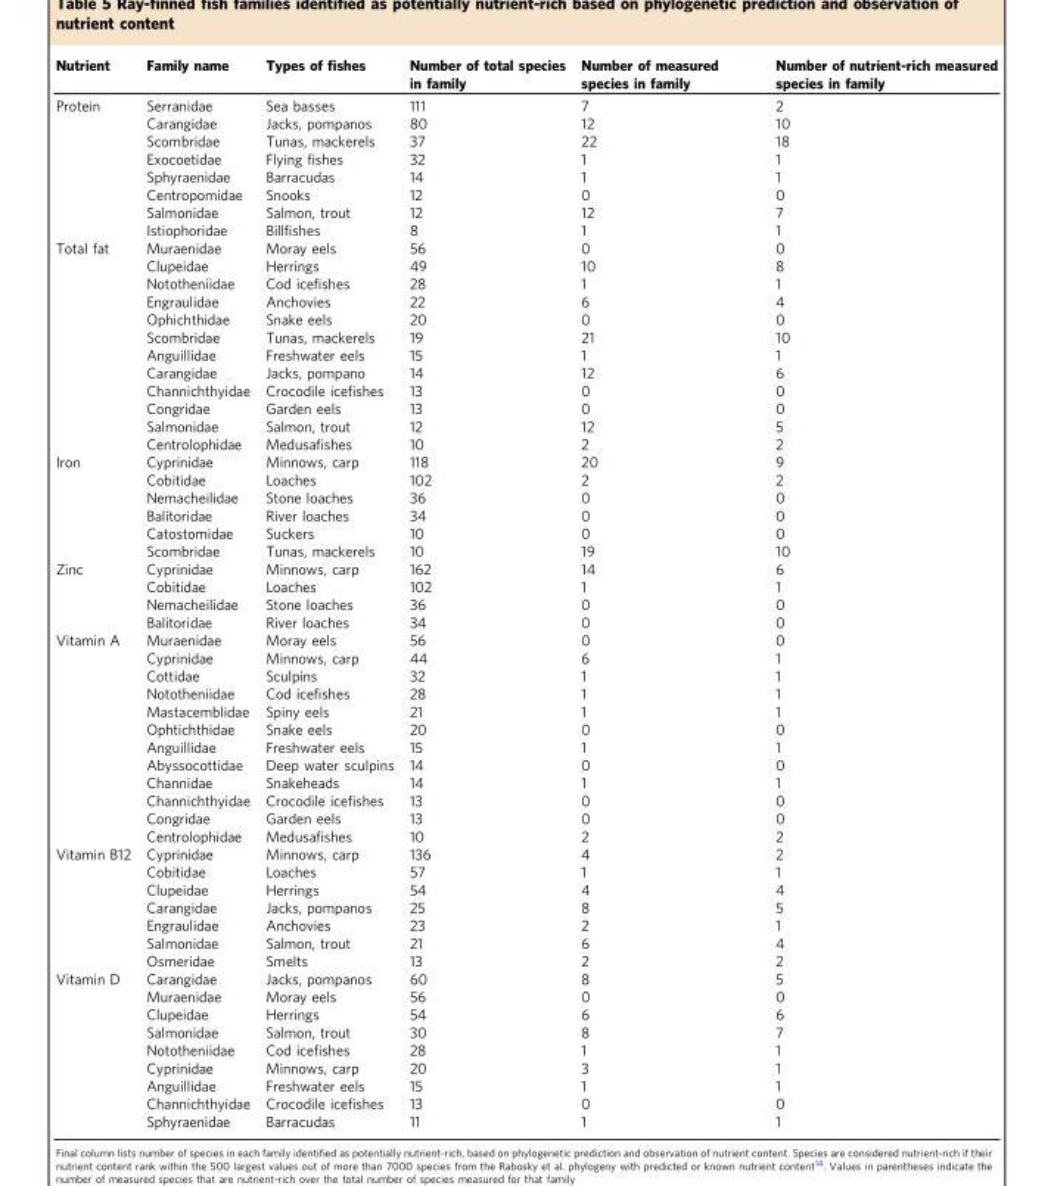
<table><thead><tr><td>Nutrient</td><td>Family name</td><td>Types of fishes</td><td>Number of total species in family</td><td>Number of measured species in family</td><td>Number of nutrient-rich measured species in family</td></tr></thead><tbody><tr><td rowspan="8">Protein</td><td>Serranidae</td><td>Sea basses</td><td>111</td><td>7</td><td>2</td></tr><tr><td>Carangidae</td><td>Jacks, pompanos</td><td>80</td><td>12</td><td>10</td></tr><tr><td>Scombridae</td><td>Tunas, mackerels</td><td>37</td><td>22</td><td>18</td></tr><tr><td>Exocoetidae</td><td>Flying fishes</td><td>32</td><td>1</td><td>1</td></tr><tr><td>Sphyraenidae</td><td>Barracudas</td><td>14</td><td>1</td><td>1</td></tr><tr><td>Centropomidae</td><td>Snooks</td><td>12</td><td>0</td><td>0</td></tr><tr><td>Salmonidae</td><td>Salmon, trout</td><td>12</td><td>12</td><td>7</td></tr><tr><td>Istiophoridae</td><td>Billfishes</td><td>8</td><td>1</td><td>1</td></tr><tr><td rowspan="12">Total fat</td><td>Muraenidae</td><td>Moray eels</td><td>56</td><td>0</td><td>0</td></tr><tr><td>Clupeidae</td><td>Herrings</td><td>49</td><td>10</td><td>8</td></tr><tr><td>Nototheniidae</td><td>Cod icefishes</td><td>28</td><td>1</td><td>1</td></tr><tr><td>Engraulidae</td><td>Anchovies</td><td>22</td><td>6</td><td>4</td></tr><tr><td>Ophichthidae</td><td>Snake eels</td><td>20</td><td>0</td><td>0</td></tr><tr><td>Scombridae</td><td>Tunas, mackerels</td><td>19</td><td>21</td><td>10</td></tr><tr><td>Anguillidae</td><td>Freshwater eels</td><td>15</td><td>1</td><td>1</td></tr><tr><td>Carangidae</td><td>Jacks, pompano</td><td>14</td><td>12</td><td>6</td></tr><tr><td>Channichthyidae</td><td>Crocodile icefishes</td><td>13</td><td>0</td><td>0</td></tr><tr><td>Congridae</td><td>Garden eels</td><td>13</td><td>0</td><td>0</td></tr><tr><td>Salmonidae</td><td>Salmon, trout</td><td>12</td><td>12</td><td>5</td></tr><tr><td>Centrolophidae</td><td>Medusafishes</td><td>10</td><td>2</td><td>2</td></tr><tr><td rowspan="6">Iron</td><td>Cyprinidae</td><td>Minnows, carp</td><td>118</td><td>20</td><td>9</td></tr><tr><td>Cobitidae</td><td>Loaches</td><td>102</td><td>2</td><td>2</td></tr><tr><td>Nemacheilidae</td><td>Stone loaches</td><td>36</td><td>0</td><td>0</td></tr><tr><td>Balitoridae</td><td>River loaches</td><td>34</td><td>0</td><td>0</td></tr><tr><td>Catostomidae</td><td>Suckers</td><td>10</td><td>0</td><td>0</td></tr><tr><td>Scombridae</td><td>Tunas, mackerels</td><td>10</td><td>19</td><td>10</td></tr><tr><td rowspan="4">Zinc</td><td>Cyprinidae</td><td>Minnows, carp</td><td>162</td><td>14</td><td>6</td></tr><tr><td>Cobitidae</td><td>Loaches</td><td>102</td><td>1</td><td>1</td></tr><tr><td>Nemacheilidae</td><td>Stone loaches</td><td>36</td><td>0</td><td>0</td></tr><tr><td>Balitoridae</td><td>River loaches</td><td>34</td><td>0</td><td>0</td></tr><tr><td rowspan="12">Vitamin A</td><td>Muraenidae</td><td>Moray eels</td><td>56</td><td>0</td><td>0</td></tr><tr><td>Cyprinidae</td><td>Minnows, carp</td><td>44</td><td>6</td><td>1</td></tr><tr><td>Cottidae</td><td>Sculpins</td><td>32</td><td>1</td><td>1</td></tr><tr><td>Nototheniidae</td><td>Cod icefishes</td><td>28</td><td>1</td><td>1</td></tr><tr><td>Mastacemblidae</td><td>Spiny eels</td><td>21</td><td>1</td><td>1</td></tr><tr><td>Ophtichthidae</td><td>Snake eels</td><td>20</td><td>0</td><td>0</td></tr><tr><td>Anguillidae</td><td>Freshwater eels</td><td>15</td><td>1</td><td>1</td></tr><tr><td>Abyssocottidae</td><td>Deep water sculpins</td><td>14</td><td>0</td><td>0</td></tr><tr><td>Channidae</td><td>Snakeheads</td><td>14</td><td>1</td><td>1</td></tr><tr><td>Channichthyidae</td><td>Crocodile icefishes</td><td>13</td><td>0</td><td>0</td></tr><tr><td>Congridae</td><td>Garden eels</td><td>13</td><td>0</td><td>0</td></tr><tr><td>Centrolophidae</td><td>Medusafishes</td><td>10</td><td>2</td><td>2</td></tr><tr><td rowspan="7">Vitamin B12</td><td>Cyprinidae</td><td>Minnows, carp</td><td>136</td><td>4</td><td>2</td></tr><tr><td>Cobitidae</td><td>Loaches</td><td>57</td><td>1</td><td>1</td></tr><tr><td>Clupeidae</td><td>Herrings</td><td>54</td><td>4</td><td>4</td></tr><tr><td>Carangidae</td><td>Jacks, pompanos</td><td>25</td><td>8</td><td>5</td></tr><tr><td>Engraulidae</td><td>Anchovies</td><td>23</td><td>2</td><td>1</td></tr><tr><td>Salmonidae</td><td>Salmon, trout</td><td>21</td><td>6</td><td>4</td></tr><tr><td>Osmeridae</td><td>Smelts</td><td>13</td><td>2</td><td>2</td></tr><tr><td rowspan="9">Vitamin D</td><td>Carangidae</td><td>Jacks, pompanos</td><td>60</td><td>8</td><td>5</td></tr><tr><td>Muraenidae</td><td>Moray eels</td><td>56</td><td>0</td><td>0</td></tr><tr><td>Clupeidae</td><td>Herrings</td><td>54</td><td>6</td><td>6</td></tr><tr><td>Salmonidae</td><td>Salmon, trout</td><td>30</td><td>8</td><td>7</td></tr><tr><td>Nototheniidae</td><td>Cod icefishes</td><td>28</td><td>1</td><td>1</td></tr><tr><td>Cyprinidae</td><td>Minnows, carp</td><td>20</td><td>3</td><td>1</td></tr><tr><td>Anguillidae</td><td>Freshwater eels</td><td>15</td><td>1</td><td>1</td></tr><tr><td>Channichthyidae</td><td>Crocodile icefishes</td><td>13</td><td>0</td><td>0</td></tr><tr><td>Sphyraenidae</td><td>Barracudas</td><td>11</td><td>1</td><td>1</td></tr></tbody></table>